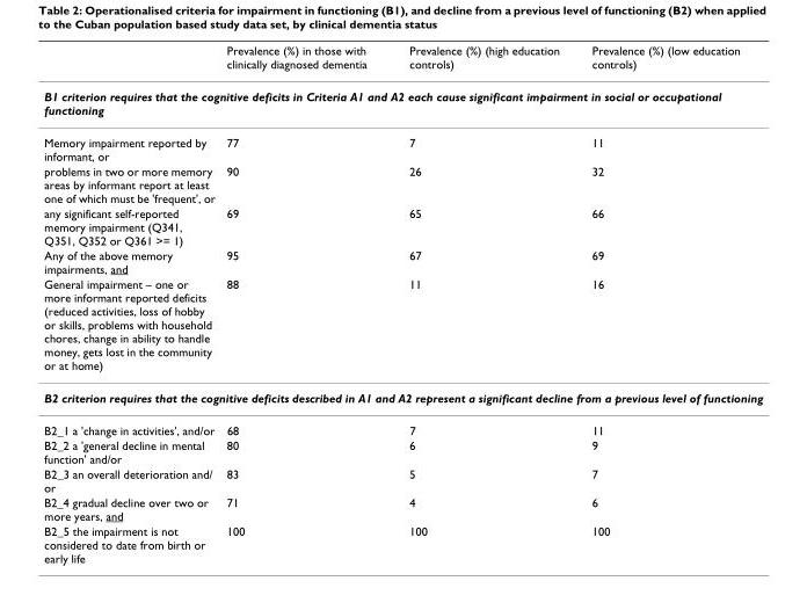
<table><thead><tr><td></td><td>Prevalence (%) in those with clinically diagnosed dementia</td><td>Prevalence (%) (high education controls)</td><td>Prevalence (%) (low education controls)</td></tr></thead><tbody><tr><td colspan="4">B1 criterion requires that the cognitive deficits in Criteria A1 and A2 each cause significant impairment in social or occupational functioning</td></tr><tr><td>Memory impairment reported by informant, or</td><td>77</td><td>7</td><td>11</td></tr><tr><td>problems in two or more memory areas by informant report at least one of which must be &#x27;frequent&#x27;, or</td><td>90</td><td>26</td><td>32</td></tr><tr><td>any significant self-reported memory impairment (Q341, Q351, Q352 or Q361 &gt;= 1)</td><td>69</td><td>65</td><td>66</td></tr><tr><td>Any of the above memory impairments, and</td><td>95</td><td>67</td><td>69</td></tr><tr><td>General impairment – one or more informant reported deficits (reduced activities, loss of hobby or skills, problems with household chores, change in ability to handle money, gets lost in the community or at home)</td><td>88</td><td>11</td><td>16</td></tr><tr><td colspan="4">B2 criterion requires that the cognitive deficits described in A1 and A2 represent a significant decline from a previous level of functioning</td></tr><tr><td>B2_1 a &#x27;change in activities&#x27;, and/or</td><td>68</td><td>7</td><td>11</td></tr><tr><td>B2_2 a &#x27;general decline in mental function&#x27; and/or</td><td>80</td><td>6</td><td>9</td></tr><tr><td>B2_3 an overall deterioration and/ or</td><td>83</td><td>5</td><td>7</td></tr><tr><td>B2_4 gradual decline over two or more years, and</td><td>71</td><td>4</td><td>6</td></tr><tr><td>B2_5 the impairment is not considered to date from birth or early life</td><td>100</td><td>100</td><td>100</td></tr></tbody></table>